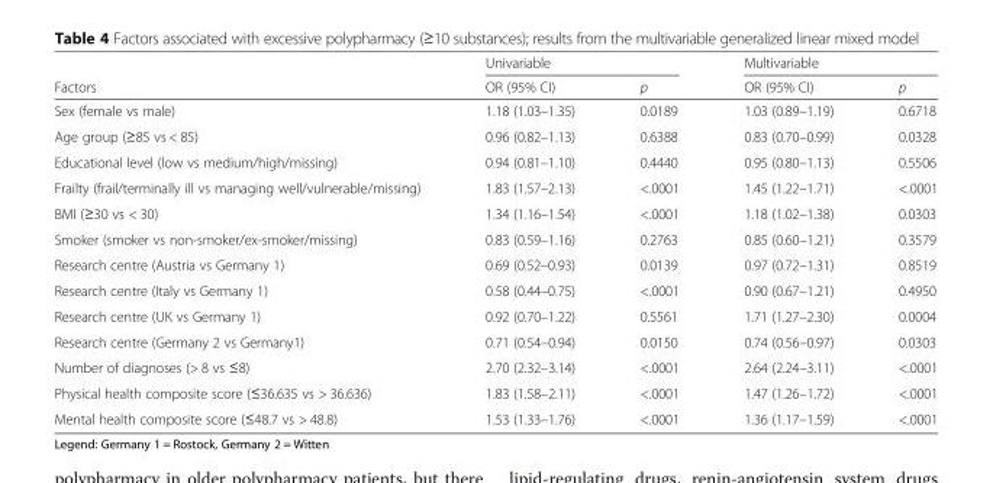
<table><thead><tr><td rowspan="2">Factors</td><td colspan="2">Univariable</td><td colspan="2">Multivariable</td></tr><tr><td>OR (95% CI)</td><td>p</td><td>OR (95% CI)</td><td>p</td></tr></thead><tbody><tr><td>Sex (female vs male)</td><td>1.18 (1.03–1.35)</td><td>0.0189</td><td>1.03 (0.89–1.19)</td><td>0.6718</td></tr><tr><td>Age group (≥85 vs &lt; 85)</td><td>0.96 (0.82–1.13)</td><td>0.6388</td><td>0.83 (0.70–0.99)</td><td>0.0328</td></tr><tr><td>Educational level (low vs medium/high/missing)</td><td>0.94 (0.81–1.10)</td><td>0.4440</td><td>0.95 (0.80–1.13)</td><td>0.5506</td></tr><tr><td>Frailty (frail/terminally ill vs managing well/vulnerable/missing)</td><td>1.83 (1.57–2.13)</td><td>&lt;.0001</td><td>1.45 (1.22–1.71)</td><td>&lt;.0001</td></tr><tr><td>BMI (≥30 vs &lt; 30)</td><td>1.34 (1.16–1.54)</td><td>&lt;.0001</td><td>1.18 (1.02–1.38)</td><td>0.0303</td></tr><tr><td>Smoker (smoker vs non-smoker/ex-smoker/missing)</td><td>0.83 (0.59–1.16)</td><td>0.2763</td><td>0.85 (0.60–1.21)</td><td>0.3579</td></tr><tr><td>Research centre (Austria vs Germany 1)</td><td>0.69 (0.52–0.93)</td><td>0.0139</td><td>0.97 (0.72–1.31)</td><td>0.8519</td></tr><tr><td>Research centre (Italy vs Germany 1)</td><td>0.58 (0.44–0.75)</td><td>&lt;.0001</td><td>0.90 (0.67–1.21)</td><td>0.4950</td></tr><tr><td>Research centre (UK vs Germany 1)</td><td>0.92 (0.70–1.22)</td><td>0.5561</td><td>1.71 (1.27–2.30)</td><td>0.0004</td></tr><tr><td>Research centre (Germany 2 vs Germany1)</td><td>0.71 (0.54–0.94)</td><td>0.0150</td><td>0.74 (0.56–0.97)</td><td>0.0303</td></tr><tr><td>Number of diagnoses (&gt; 8 vs ≤8)</td><td>2.70 (2.32–3.14)</td><td>&lt;.0001</td><td>2.64 (2.24–3.11)</td><td>&lt;.0001</td></tr><tr><td>Physical health composite score (≤36.635 vs &gt; 36.636)</td><td>1.83 (1.58–2.11)</td><td>&lt;.0001</td><td>1.47 (1.26–1.72)</td><td>&lt;.0001</td></tr><tr><td>Mental health composite score (≤48.7 vs &gt; 48.8)</td><td>1.53 (1.33–1.76)</td><td>&lt;.0001</td><td>1.36 (1.17–1.59)</td><td>&lt;.0001</td></tr></tbody></table>